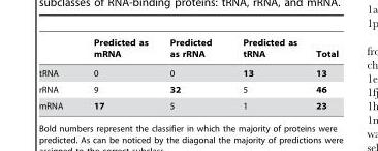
<table><thead><tr><td></td><td>Predicted as mRNA</td><td>Predicted as rRNA</td><td>Predicted as tRNA</td><td>Total</td></tr></thead><tbody><tr><td>tRNA</td><td>0</td><td>0</td><td>13</td><td>13</td></tr><tr><td>rRNA</td><td>9</td><td>32</td><td>5</td><td>46</td></tr><tr><td>mRNA</td><td>17</td><td>5</td><td>1</td><td>23</td></tr></tbody></table>